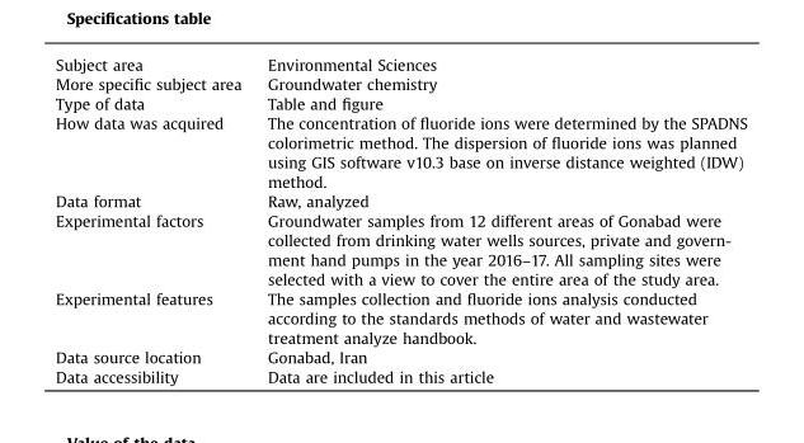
<table><tbody><tr><td>Subject area</td><td>Environmental Sciences</td></tr><tr><td>More specific subject area</td><td>Groundwater chemistry</td></tr><tr><td>Type of data</td><td>Table and figure</td></tr><tr><td>How data was acquired</td><td>The concentration of fluoride ions were determined by the SPADNS colorimetric method. The dispersion of fluoride ions was planned using GIS software v10.3 base on inverse distance weighted (IDW) method.</td></tr><tr><td>Data format</td><td>Raw, analyzed</td></tr><tr><td>Experimental factors</td><td>Groundwater samples from 12 different areas of Gonabad were collected from drinking water wells sources, private and govern- ment hand pumps in the year 2016–17. All sampling sites were selected with a view to cover the entire area of the study area.</td></tr><tr><td>Experimental features</td><td>The samples collection and fluoride ions analysis conducted according to the standards methods of water and wastewater treatment analyze handbook.</td></tr><tr><td>Data source location</td><td>Gonabad, Iran</td></tr><tr><td>Data accessibility</td><td>Data are included in this article</td></tr></tbody></table>